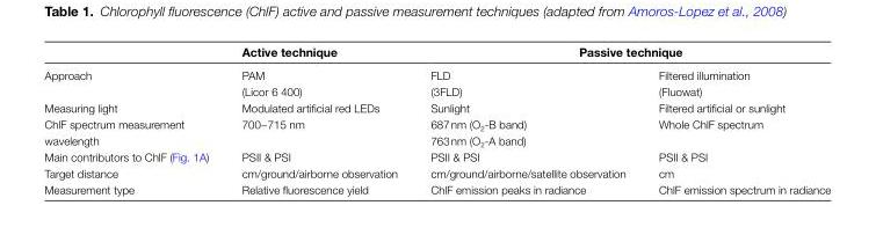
<table><thead><tr><td rowspan="2">Approach</td><td rowspan="2">Active technique PAM (Licor 6 400)</td><td colspan="2">Passive technique</td></tr><tr><td>FLD (3FLD)</td><td>Filtered illumination (Fluowat)</td></tr></thead><tbody><tr><td>Measuring light</td><td>Modulated artificial red LEDs</td><td>Sunlight</td><td>Filtered artificial or sunlight</td></tr><tr><td>ChlF spectrum measurement wavelength</td><td>700−715 nm</td><td>687 nm (O<sub>2</sub>-B band) 763 nm (O<sub>2</sub>-A band)</td><td>Whole ChlF spectrum</td></tr><tr><td>Main contributors to ChlF (Fig. 1A)</td><td>PSII &amp; PSI</td><td>PSII &amp; PSI</td><td>PSII &amp; PSI</td></tr><tr><td>Target distance</td><td>cm/ground/airborne observation</td><td>cm/ground/airborne/satellite observation</td><td>cm</td></tr><tr><td>Measurement type</td><td>Relative fluorescence yield</td><td>ChlF emission peaks in radiance</td><td>ChlF emission spectrum in radiance</td></tr></tbody></table>